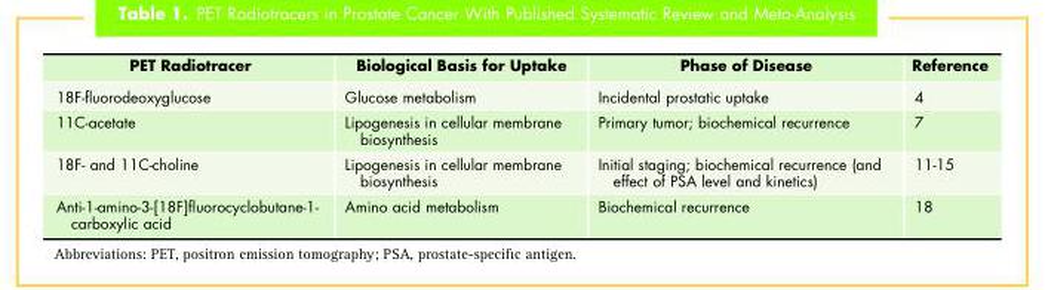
<table><thead><tr><td>PET Radiotracer</td><td>Biological Basis for Uptake</td><td>Phase of Disease</td><td>Reference</td></tr></thead><tbody><tr><td>18F-fluorodeoxyglucose</td><td>Glucose metabolism</td><td>Incidental prostatic uptake</td><td>4</td></tr><tr><td>11C-acetate</td><td>Lipogenesis in cellular membrane biosynthesis</td><td>Primary tumor; biochemical recurrence</td><td>7</td></tr><tr><td>18F- and 11C-choline</td><td>Lipogenesis in cellular membrane biosynthesis</td><td>Initial staging; biochemical recurrence (and effect of PSA level and kinetics)</td><td>11-15</td></tr><tr><td>Anti-1-amino-3-[18F]fluorocyclobutane-1- carboxylic acid</td><td>Amino acid metabolism</td><td>Biochemical recurrence</td><td>18</td></tr></tbody></table>